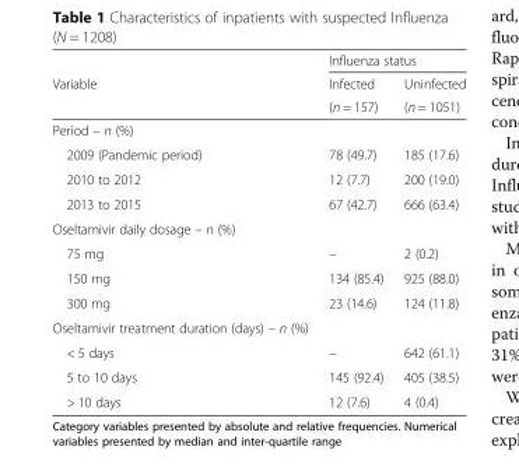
<table><thead><tr><td rowspan="3">Variable</td><td colspan="2">Influenza status</td></tr><tr><td rowspan="2">Infected (n = 157)</td><td rowspan="2">Uninfected (n = 1051)</td></tr><tr></tr></thead><tbody><tr><td colspan="3">Period – n (%)</td></tr><tr><td>2009 (Pandemic period)</td><td>78 (49.7)</td><td>185 (17.6)</td></tr><tr><td>2010 to 2012</td><td>12 (7.7)</td><td>200 (19.0)</td></tr><tr><td>2013 to 2015</td><td>67 (42.7)</td><td>666 (63.4)</td></tr><tr><td colspan="3">Oseltamivir daily dosage – n (%)</td></tr><tr><td>75 mg</td><td>–</td><td>2 (0.2)</td></tr><tr><td>150 mg</td><td>134 (85.4)</td><td>925 (88.0)</td></tr><tr><td>300 mg</td><td>23 (14.6)</td><td>124 (11.8)</td></tr><tr><td colspan="3">Oseltamivir treatment duration (days) – n (%)</td></tr><tr><td>&lt; 5 days</td><td>–</td><td>642 (61.1)</td></tr><tr><td>5 to 10 days</td><td>145 (92.4)</td><td>405 (38.5)</td></tr><tr><td>&gt; 10 days</td><td>12 (7.6)</td><td>4 (0.4)</td></tr></tbody></table>